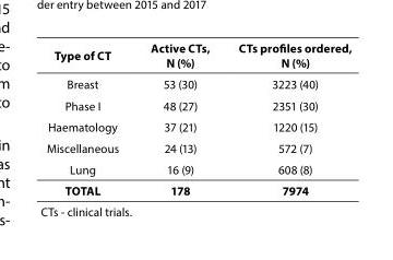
<table><thead><tr><td>Type of CT</td><td>Active CTs, N (%)</td><td>CTs profiles ordered, N (%)</td></tr></thead><tbody><tr><td>Breast</td><td>53 (30)</td><td>3223 (40)</td></tr><tr><td>Phase I</td><td>48 (27)</td><td>2351 (30)</td></tr><tr><td>Haematology</td><td>37 (21)</td><td>1220 (15)</td></tr><tr><td>Miscellaneous</td><td>24 (13)</td><td>572 (7)</td></tr><tr><td>Lung</td><td>16 (9)</td><td>608 (8)</td></tr><tr><td>TOTAL</td><td>178</td><td>7974</td></tr><tr><td colspan="3">CTs - clinical trials.</td></tr></tbody></table>